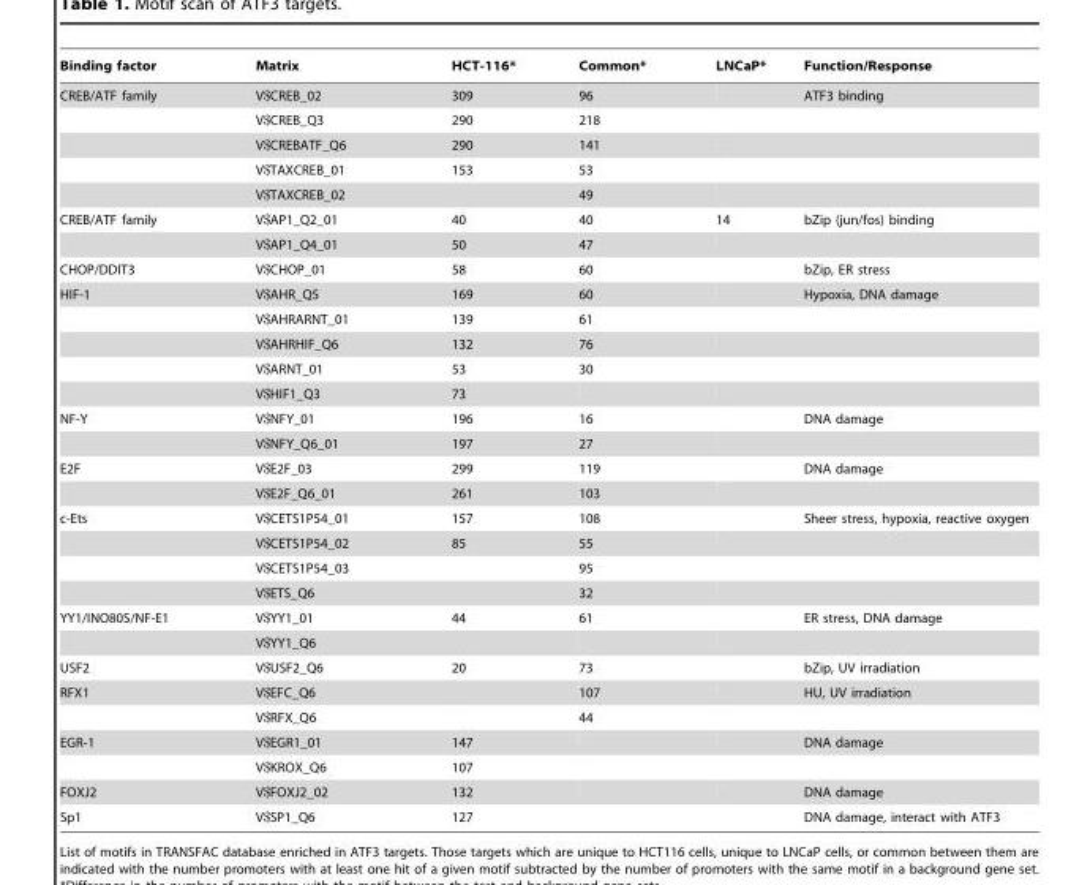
<table><thead><tr><td>Binding factor</td><td>Matrix</td><td>HCT-116*</td><td>Common*</td><td>LNCaP*</td><td>Function/Response</td></tr></thead><tbody><tr><td rowspan="5">CREB/ATF family</td><td>V$CREB_02</td><td>309</td><td>96</td><td></td><td>ATF3 binding</td></tr><tr><td>V$CREB_Q3</td><td>290</td><td>218</td><td></td><td></td></tr><tr><td>V$CREBATF_Q6</td><td>290</td><td>141</td><td></td><td></td></tr><tr><td>V$TAXCREB_01</td><td>153</td><td>53</td><td></td><td></td></tr><tr><td>V$TAXCREB_02</td><td></td><td>49</td><td></td><td></td></tr><tr><td rowspan="2">CREB/ATF family</td><td>V$AP1_Q2_01</td><td>40</td><td>40</td><td>14</td><td>bZip (jun/fos) binding</td></tr><tr><td>V$AP1_Q4_01</td><td>50</td><td>47</td><td></td><td></td></tr><tr><td>CHOP/DDIT3</td><td>V$CHOP_01</td><td>58</td><td>60</td><td></td><td>bZip, ER stress</td></tr><tr><td rowspan="5">HIF-1</td><td>V$AHR_Q5</td><td>169</td><td>60</td><td></td><td>Hypoxia, DNA damage</td></tr><tr><td>V$AHRARNT_01</td><td>139</td><td>61</td><td></td><td></td></tr><tr><td>V$AHRHIF_Q6</td><td>132</td><td>76</td><td></td><td></td></tr><tr><td>V$ARNT_01</td><td>53</td><td>30</td><td></td><td></td></tr><tr><td>V$HIF1_Q3</td><td>73</td><td></td><td></td><td></td></tr><tr><td rowspan="2">NF-Y</td><td>V$NFY_01</td><td>196</td><td>16</td><td></td><td>DNA damage</td></tr><tr><td>V$NFY_Q6_01</td><td>197</td><td>27</td><td></td><td></td></tr><tr><td rowspan="2">E2F</td><td>V$E2F_03</td><td>299</td><td>119</td><td></td><td>DNA damage</td></tr><tr><td>V$E2F_Q6_01</td><td>261</td><td>103</td><td></td><td></td></tr><tr><td rowspan="4">c-Ets</td><td>V$CETS1P54_01</td><td>157</td><td>108</td><td></td><td>Sheer stress, hypoxia, reactive oxygen</td></tr><tr><td>V$CETS1P54_02</td><td>85</td><td>55</td><td></td><td></td></tr><tr><td>V$CETS1P54_03</td><td></td><td>95</td><td></td><td></td></tr><tr><td>V$ETS_Q6</td><td></td><td>32</td><td></td><td></td></tr><tr><td rowspan="2">YY1/INO80S/NF-E1</td><td>V$YY1_01</td><td>44</td><td>61</td><td></td><td>ER stress, DNA damage</td></tr><tr><td>V$YY1_Q6</td><td></td><td></td><td></td><td></td></tr><tr><td>USF2</td><td>V$USF2_Q6</td><td>20</td><td>73</td><td></td><td>bZip, UV irradiation</td></tr><tr><td rowspan="2">RFX1</td><td>V$EFC_Q6</td><td></td><td>107</td><td></td><td>HU, UV irradiation</td></tr><tr><td>V$RFX_Q6</td><td></td><td>44</td><td></td><td></td></tr><tr><td rowspan="2">EGR-1</td><td>V$EGR1_01</td><td>147</td><td></td><td></td><td>DNA damage</td></tr><tr><td>V$KROX_Q6</td><td>107</td><td></td><td></td><td></td></tr><tr><td>FOXJ2</td><td>V$FOXJ2_02</td><td>132</td><td></td><td></td><td>DNA damage</td></tr><tr><td>Sp1</td><td>V$SP1_Q6</td><td>127</td><td></td><td></td><td>DNA damage, interact with ATF3</td></tr></tbody></table>